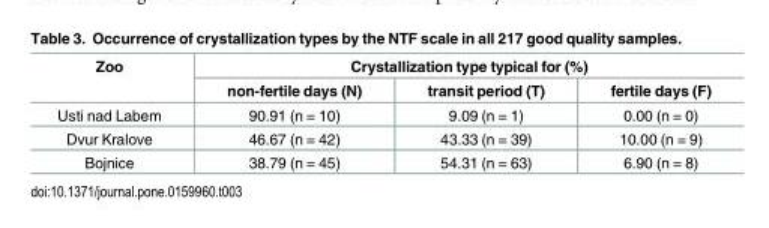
<table><thead><tr><td rowspan="2">Zoo</td><td colspan="3">Crystallization type typical for (%)</td></tr><tr><td>non-fertile days (N)</td><td>transit period (T)</td><td>fertile days (F)</td></tr></thead><tbody><tr><td>Usti nad Labem</td><td>90.91 (n = 10)</td><td>9.09 (n = 1)</td><td>0.00 (n = 0)</td></tr><tr><td>Dvur Kralove</td><td>46.67 (n = 42)</td><td>43.33 (n = 39)</td><td>10.00 (n = 9)</td></tr><tr><td>Bojnice</td><td>38.79 (n = 45)</td><td>54.31 (n = 63)</td><td>6.90 (n = 8)</td></tr></tbody></table>